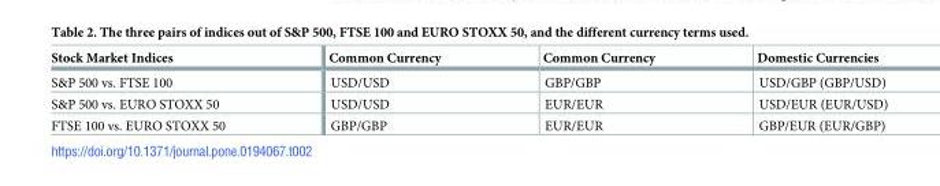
<table><thead><tr><td>Stock Market Indices</td><td>Common Currency</td><td>Common Currency</td><td>Domestic Currencies</td></tr></thead><tbody><tr><td>S&amp;P 500 vs. FTSE 100</td><td>USD/USD</td><td>GBP/GBP</td><td>USD/GBP (GBP/USD)</td></tr><tr><td>S&amp;P 500 vs. EURO STOXX 50</td><td>USD/USD</td><td>EUR/EUR</td><td>USD/EUR (EUR/USD)</td></tr><tr><td>FTSE 100 vs. EURO STOXX 50</td><td>GBP/GBP</td><td>EUR/EUR</td><td>GBP/EUR (EUR/GBP)</td></tr></tbody></table>